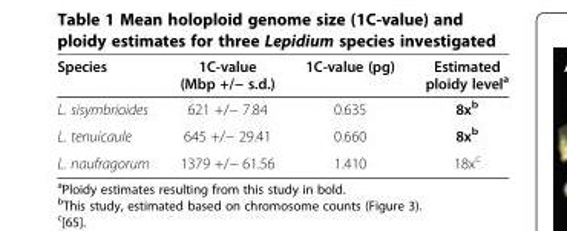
<table><thead><tr><td>Species</td><td>1C-value (Mbp +/− s.d.)</td><td>1C-value (pg)</td><td>Estimated ploidy level<sup>a</sup></td></tr></thead><tbody><tr><td>L. sisymbrioides</td><td>621 +/− 7.84</td><td>0.635</td><td>8x<sup>b</sup></td></tr><tr><td>L. tenuicaule</td><td>645 +/− 29.41</td><td>0.660</td><td>8x<sup>b</sup></td></tr><tr><td>L. naufragorum</td><td>1379 +/− 61.56</td><td>1.410</td><td>18x<sup>c</sup></td></tr></tbody></table>